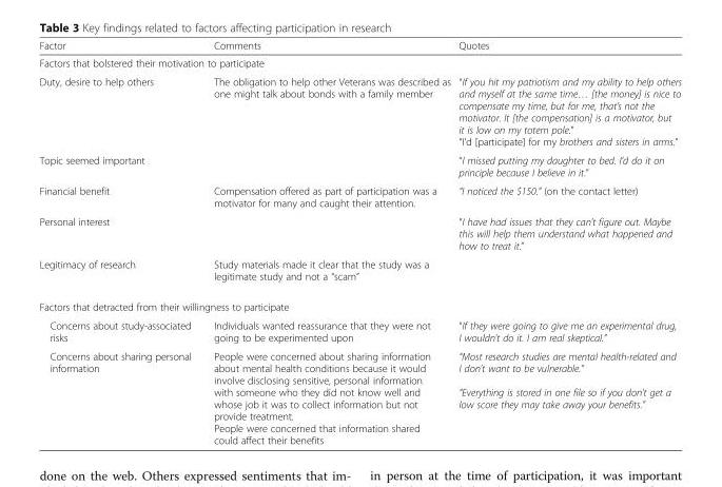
<table><thead><tr><td>Factor</td><td>Comments</td><td>Quotes</td></tr></thead><tbody><tr><td colspan="3">Factors that bolstered their motivation to participate</td></tr><tr><td>Duty, desire to help others</td><td>The obligation to help other Veterans was described as one might talk about bonds with a family member</td><td>“If you hit my patriotism and my ability to help others and myself at the same time… [the money] is nice to compensate my time, but for me, that’s not the motivator. It [the compensation] is a motivator, but it is low on my totem pole.” “I’d [participate] for my brothers and sisters in arms.”</td></tr><tr><td>Topic seemed important</td><td></td><td>“I missed putting my daughter to bed. I’d do it on principle because I believe in it.”</td></tr><tr><td>Financial benefit</td><td>Compensation offered as part of participation was a motivator for many and caught their attention.</td><td>“I noticed the $150.” (on the contact letter)</td></tr><tr><td>Personal interest</td><td></td><td>“I have had issues that they can’t figure out. Maybe this will help them understand what happened and how to treat it.”</td></tr><tr><td>Legitimacy of research</td><td>Study materials made it clear that the study was a legitimate study and not a “scam”</td><td></td></tr><tr><td colspan="3">Factors that detracted from their willingness to participate</td></tr><tr><td>Concerns about study-associated risks</td><td>Individuals wanted reassurance that they were not going to be experimented upon</td><td>“If they were going to give me an experimental drug, I wouldn’t do it. I am real skeptical.”</td></tr><tr><td>Concerns about sharing personal information</td><td>People were concerned about sharing information about mental health conditions because it would involve disclosing sensitive, personal information with someone who they did not know well and whose job it was to collect information but not provide treatment. People were concerned that information shared could affect their benefits</td><td>“Most research studies are mental health-related and I don’t want to be vulnerable.” “Everything is stored in one file so if you don’t get a low score they may take away your benefits.”</td></tr></tbody></table>